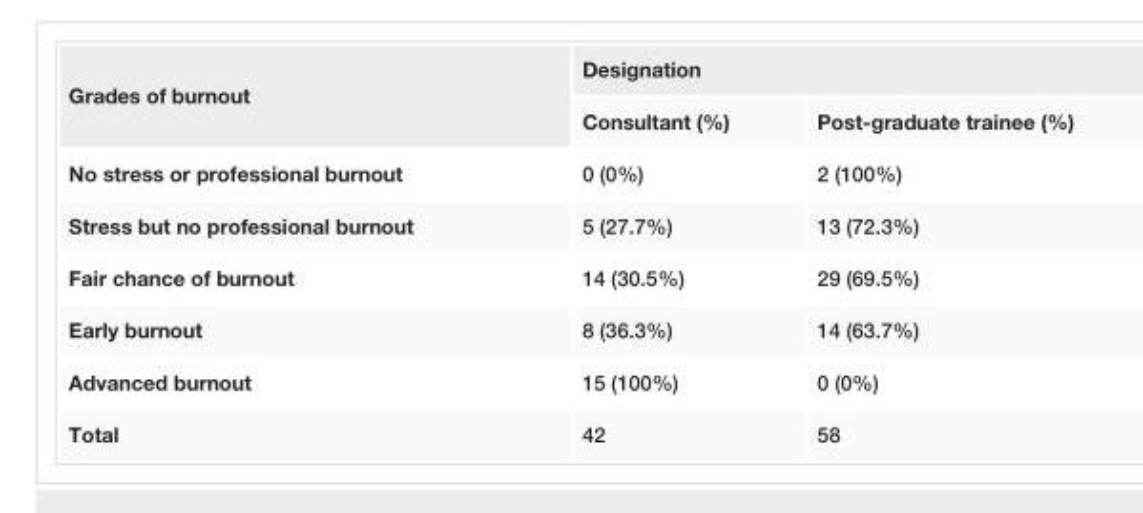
<table><tbody><tr><td rowspan="2">Grades of burnout</td><td colspan="2">Designation</td></tr><tr><td>Consultant (%)</td><td>Post-graduate trainee (%)</td></tr><tr><td>No stress or professional burnout</td><td>0 (0%)</td><td>2 (100%)</td></tr><tr><td>Stress but no professional burnout</td><td>5 (27.7%)</td><td>13 (72.3%)</td></tr><tr><td>Fair chance of burnout</td><td>14 (30.5%)</td><td>29 (69.5%)</td></tr><tr><td>Early burnout</td><td>8 (36.3%)</td><td>14 (63.7%)</td></tr><tr><td>Advanced burnout</td><td>15 (100%)</td><td>0 (0%)</td></tr><tr><td>Total</td><td>42</td><td>58</td></tr></tbody></table>